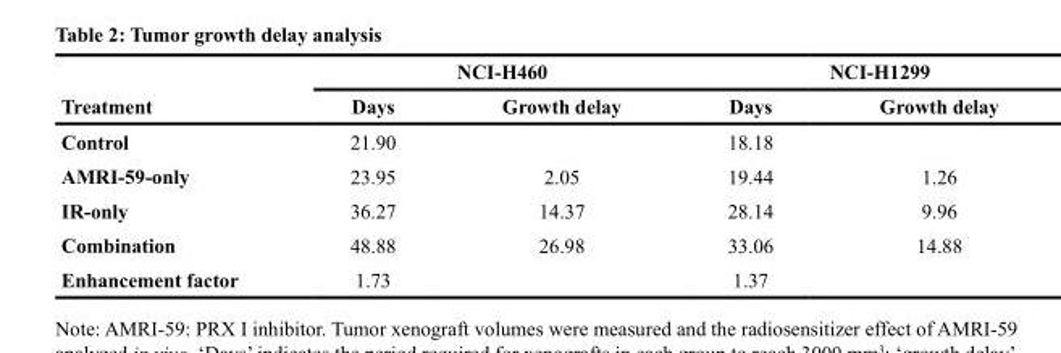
<table><thead><tr><td rowspan="2">Treatment</td><td colspan="2">NCI-H460</td><td colspan="2">NCI-H1299</td></tr><tr><td>Days</td><td>Growth delay</td><td>Days</td><td>Growth delay</td></tr></thead><tbody><tr><td>Control</td><td>21.90</td><td></td><td>18.18</td><td></td></tr><tr><td>AMRI-59-only</td><td>23.95</td><td>2.05</td><td>19.44</td><td>1.26</td></tr><tr><td>IR-only</td><td>36.27</td><td>14.37</td><td>28.14</td><td>9.96</td></tr><tr><td>Combination</td><td>48.88</td><td>26.98</td><td>33.06</td><td>14.88</td></tr><tr><td>Enhancement factor</td><td>1.73</td><td></td><td>1.37</td><td></td></tr></tbody></table>